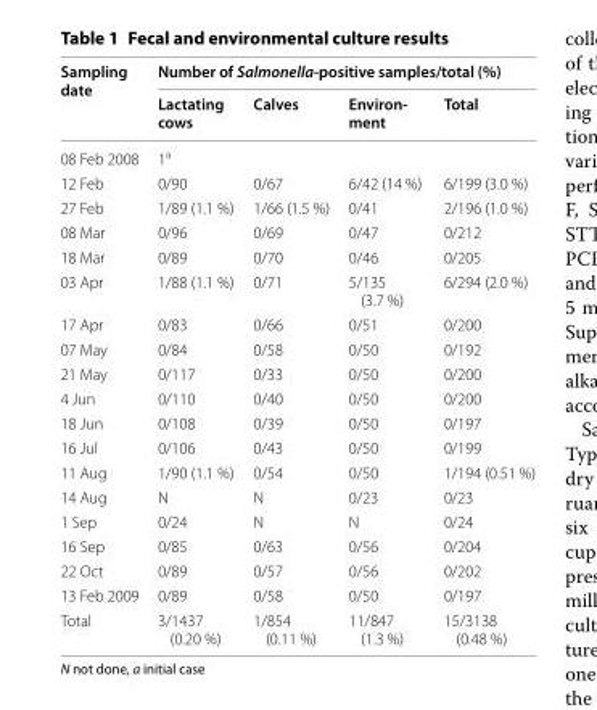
<table><thead><tr><td rowspan="2">Sampling date</td><td colspan="4">Number of Salmonella-positive samples/total (%)</td></tr><tr><td>Lactating cows</td><td>Calves</td><td>Environ- ment</td><td>Total</td></tr></thead><tbody><tr><td>08 Feb 2008</td><td>1<sup>a</sup></td><td></td><td></td><td></td></tr><tr><td>12 Feb</td><td>0/90</td><td>0/67</td><td>6/42 (14 %)</td><td>6/199 (3.0 %)</td></tr><tr><td>27 Feb</td><td>1/89 (1.1 %)</td><td>1/66 (1.5 %)</td><td>0/41</td><td>2/196 (1.0 %)</td></tr><tr><td>08 Mar</td><td>0/96</td><td>0/69</td><td>0/47</td><td>0/212</td></tr><tr><td>18 Mar</td><td>0/89</td><td>0/70</td><td>0/46</td><td>0/205</td></tr><tr><td>03 Apr</td><td>1/88 (1.1 %)</td><td>0/71</td><td>5/135 (3.7 %)</td><td>6/294 (2.0 %)</td></tr><tr><td>17 Apr</td><td>0/83</td><td>0/66</td><td>0/51</td><td>0/200</td></tr><tr><td>07 May</td><td>0/84</td><td>0/58</td><td>0/50</td><td>0/192</td></tr><tr><td>21 May</td><td>0/117</td><td>0/33</td><td>0/50</td><td>0/200</td></tr><tr><td>4 Jun</td><td>0/110</td><td>0/40</td><td>0/50</td><td>0/200</td></tr><tr><td>18 Jun</td><td>0/108</td><td>0/39</td><td>0/50</td><td>0/197</td></tr><tr><td>16 Jul</td><td>0/106</td><td>0/43</td><td>0/50</td><td>0/199</td></tr><tr><td>11 Aug</td><td>1/90 (1.1 %)</td><td>0/54</td><td>0/50</td><td>1/194 (0.51 %)</td></tr><tr><td>14 Aug</td><td>N</td><td>N</td><td>0/23</td><td>0/23</td></tr><tr><td>1 Sep</td><td>0/24</td><td>N</td><td>N</td><td>0/24</td></tr><tr><td>16 Sep</td><td>0/85</td><td>0/63</td><td>0/56</td><td>0/204</td></tr><tr><td>22 Oct</td><td>0/89</td><td>0/57</td><td>0/56</td><td>0/202</td></tr><tr><td>13 Feb 2009</td><td>0/89</td><td>0/58</td><td>0/50</td><td>0/197</td></tr><tr><td>Total</td><td>3/1437 (0.20 %)</td><td>1/854 (0.11 %)</td><td>11/847 (1.3 %)</td><td>15/3138 (0.48 %)</td></tr></tbody></table>